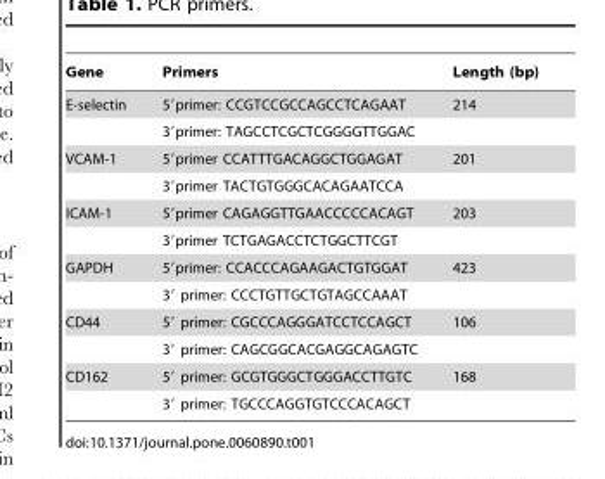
<table><thead><tr><td>Gene</td><td>Primers</td><td>Length (bp)</td></tr></thead><tbody><tr><td rowspan="2">E-selectin</td><td>5′primer: CCGTCCGCCAGCCTCAGAAT</td><td>214</td></tr><tr><td>3′primer: TAGCCTCGCTCGGGGTTGGAC</td><td></td></tr><tr><td rowspan="2">VCAM-1</td><td>5′primer CCATTTGACAGGCTGGAGAT</td><td>201</td></tr><tr><td>3′primer TACTGTGGGCACAGAATCCA</td><td></td></tr><tr><td rowspan="2">ICAM-1</td><td>5′primer CAGAGGTTGAACCCCCACAGT</td><td>203</td></tr><tr><td>3′primer TCTGAGACCTCTGGCTTCGT</td><td></td></tr><tr><td rowspan="2">GAPDH</td><td>5′primer: CCACCCAGAAGACTGTGGAT</td><td>423</td></tr><tr><td>3′ primer: CCCTGTTGCTGTAGCCAAAT</td><td></td></tr><tr><td rowspan="2">CD44</td><td>5′ primer: CGCCCAGGGATCCTCCAGCT</td><td>106</td></tr><tr><td>3′ primer: CAGCGGCACGAGGCAGAGTC</td><td></td></tr><tr><td rowspan="2">CD162</td><td>5′ primer: GCGTGGGCTGGGACCTTGTC</td><td>168</td></tr><tr><td>3′ primer: TGCCCAGGTGTCCCACAGCT</td><td></td></tr></tbody></table>